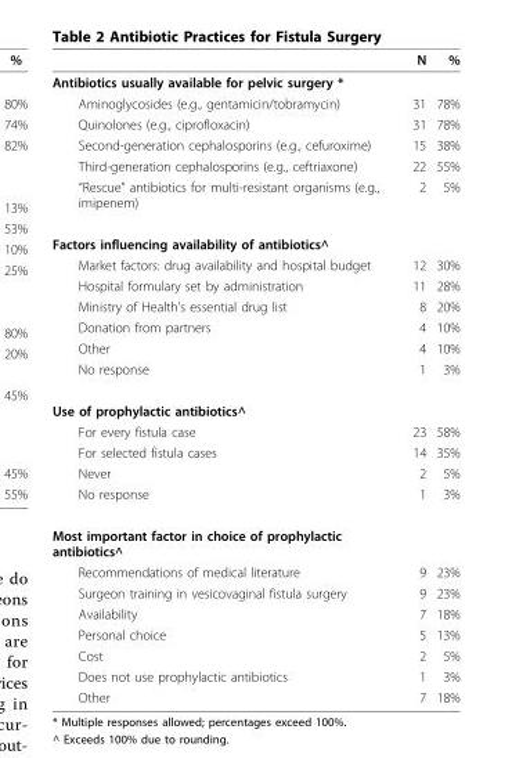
<table><thead><tr><td></td><td>N</td><td>%</td></tr></thead><tbody><tr><td colspan="3">Antibiotics usually available for pelvic surgery *</td></tr><tr><td>Aminoglycosides (e.g., gentamicin/tobramycin)</td><td>31</td><td>78%</td></tr><tr><td>Quinolones (e.g., ciprofloxacin)</td><td>31</td><td>78%</td></tr><tr><td>Second-generation cephalosporins (e.g., cefuroxime)</td><td>15</td><td>38%</td></tr><tr><td>Third-generation cephalosporins (e.g., ceftriaxone)</td><td>22</td><td>55%</td></tr><tr><td>“Rescue” antibiotics for multi-resistant organisms (e.g., imipenem)</td><td>2</td><td>5%</td></tr><tr><td colspan="3">Factors influencing availability of antibiotics^</td></tr><tr><td>Market factors: drug availability and hospital budget</td><td>12</td><td>30%</td></tr><tr><td>Hospital formulary set by administration</td><td>11</td><td>28%</td></tr><tr><td>Ministry of Health’s essential drug list</td><td>8</td><td>20%</td></tr><tr><td>Donation from partners</td><td>4</td><td>10%</td></tr><tr><td>Other</td><td>4</td><td>10%</td></tr><tr><td>No response</td><td>1</td><td>3%</td></tr><tr><td colspan="3">Use of prophylactic antibiotics^</td></tr><tr><td>For every fistula case</td><td>23</td><td>58%</td></tr><tr><td>For selected fistula cases</td><td>14</td><td>35%</td></tr><tr><td>Never</td><td>2</td><td>5%</td></tr><tr><td>No response</td><td>1</td><td>3%</td></tr><tr><td colspan="3">Most important factor in choice of prophylactic antibiotics^</td></tr><tr><td>Recommendations of medical literature</td><td>9</td><td>23%</td></tr><tr><td>Surgeon training in vesicovaginal fistula surgery</td><td>9</td><td>23%</td></tr><tr><td>Availability</td><td>7</td><td>18%</td></tr><tr><td>Personal choice</td><td>5</td><td>13%</td></tr><tr><td>Cost</td><td>2</td><td>5%</td></tr><tr><td>Does not use prophylactic antibiotics</td><td>1</td><td>3%</td></tr><tr><td>Other</td><td>7</td><td>18%</td></tr></tbody></table>